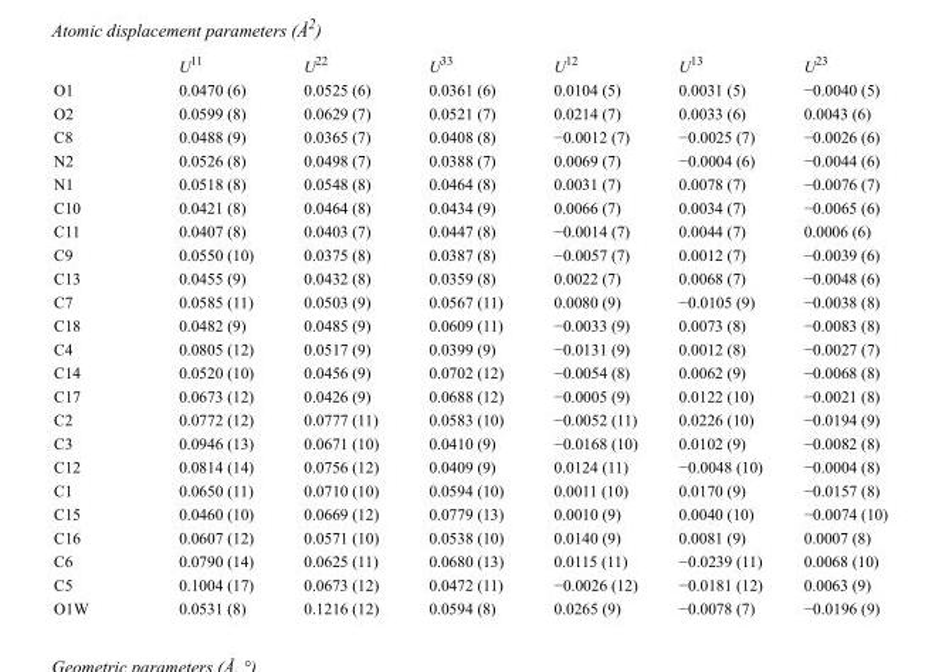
<table><thead><tr><td></td><td>U<sup>11</sup></td><td>U<sup>22</sup></td><td>U<sup>33</sup></td><td>U<sup>12</sup></td><td>U<sup>13</sup></td><td>U<sup>23</sup></td></tr></thead><tbody><tr><td>O1</td><td>0.0470 (6)</td><td>0.0525 (6)</td><td>0.0361 (6)</td><td>0.0104 (5)</td><td>0.0031 (5)</td><td>−0.0040 (5)</td></tr><tr><td>O2</td><td>0.0599 (8)</td><td>0.0629 (7)</td><td>0.0521 (7)</td><td>0.0214 (7)</td><td>0.0033 (6)</td><td>0.0043 (6)</td></tr><tr><td>C8</td><td>0.0488 (9)</td><td>0.0365 (7)</td><td>0.0408 (8)</td><td>−0.0012 (7)</td><td>−0.0025 (7)</td><td>−0.0026 (6)</td></tr><tr><td>N2</td><td>0.0526 (8)</td><td>0.0498 (7)</td><td>0.0388 (7)</td><td>0.0069 (7)</td><td>−0.0004 (6)</td><td>−0.0044 (6)</td></tr><tr><td>N1</td><td>0.0518 (8)</td><td>0.0548 (8)</td><td>0.0464 (8)</td><td>0.0031 (7)</td><td>0.0078 (7)</td><td>−0.0076 (7)</td></tr><tr><td>C10</td><td>0.0421 (8)</td><td>0.0464 (8)</td><td>0.0434 (9)</td><td>0.0066 (7)</td><td>0.0034 (7)</td><td>−0.0065 (6)</td></tr><tr><td>C11</td><td>0.0407 (8)</td><td>0.0403 (7)</td><td>0.0447 (8)</td><td>−0.0014 (7)</td><td>0.0044 (7)</td><td>0.0006 (6)</td></tr><tr><td>C9</td><td>0.0550 (10)</td><td>0.0375 (8)</td><td>0.0387 (8)</td><td>−0.0057 (7)</td><td>0.0012 (7)</td><td>−0.0039 (6)</td></tr><tr><td>C13</td><td>0.0455 (9)</td><td>0.0432 (8)</td><td>0.0359 (8)</td><td>0.0022 (7)</td><td>0.0068 (7)</td><td>−0.0048 (6)</td></tr><tr><td>C7</td><td>0.0585 (11)</td><td>0.0503 (9)</td><td>0.0567 (11)</td><td>0.0080 (9)</td><td>−0.0105 (9)</td><td>−0.0038 (8)</td></tr><tr><td>C18</td><td>0.0482 (9)</td><td>0.0485 (9)</td><td>0.0609 (11)</td><td>−0.0033 (9)</td><td>0.0073 (8)</td><td>−0.0083 (8)</td></tr><tr><td>C4</td><td>0.0805 (12)</td><td>0.0517 (9)</td><td>0.0399 (9)</td><td>−0.0131 (9)</td><td>0.0012 (8)</td><td>−0.0027 (7)</td></tr><tr><td>C14</td><td>0.0520 (10)</td><td>0.0456 (9)</td><td>0.0702 (12)</td><td>−0.0054 (8)</td><td>0.0062 (9)</td><td>−0.0068 (8)</td></tr><tr><td>C17</td><td>0.0673 (12)</td><td>0.0426 (9)</td><td>0.0688 (12)</td><td>−0.0005 (9)</td><td>0.0122 (10)</td><td>−0.0021 (8)</td></tr><tr><td>C2</td><td>0.0772 (12)</td><td>0.0777 (11)</td><td>0.0583 (10)</td><td>−0.0052 (11)</td><td>0.0226 (10)</td><td>−0.0194 (9)</td></tr><tr><td>C3</td><td>0.0946 (13)</td><td>0.0671 (10)</td><td>0.0410 (9)</td><td>−0.0168 (10)</td><td>0.0102 (9)</td><td>−0.0082 (8)</td></tr><tr><td>C12</td><td>0.0814 (14)</td><td>0.0756 (12)</td><td>0.0409 (9)</td><td>0.0124 (11)</td><td>−0.0048 (10)</td><td>−0.0004 (8)</td></tr><tr><td>C1</td><td>0.0650 (11)</td><td>0.0710 (10)</td><td>0.0594 (10)</td><td>0.0011 (10)</td><td>0.0170 (9)</td><td>−0.0157 (8)</td></tr><tr><td>C15</td><td>0.0460 (10)</td><td>0.0669 (12)</td><td>0.0779 (13)</td><td>0.0010 (9)</td><td>0.0040 (10)</td><td>−0.0074 (10)</td></tr><tr><td>C16</td><td>0.0607 (12)</td><td>0.0571 (10)</td><td>0.0538 (10)</td><td>0.0140 (9)</td><td>0.0081 (9)</td><td>0.0007 (8)</td></tr><tr><td>C6</td><td>0.0790 (14)</td><td>0.0625 (11)</td><td>0.0680 (13)</td><td>0.0115 (11)</td><td>−0.0239 (11)</td><td>0.0068 (10)</td></tr><tr><td>C5</td><td>0.1004 (17)</td><td>0.0673 (12)</td><td>0.0472 (11)</td><td>−0.0026 (12)</td><td>−0.0181 (12)</td><td>0.0063 (9)</td></tr><tr><td>O1W</td><td>0.0531 (8)</td><td>0.1216 (12)</td><td>0.0594 (8)</td><td>0.0265 (9)</td><td>−0.0078 (7)</td><td>−0.0196 (9)</td></tr></tbody></table>